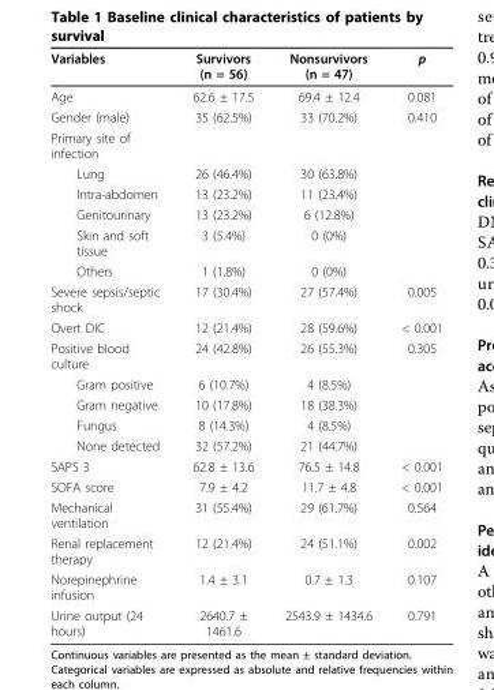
<table><thead><tr><td>Variables</td><td>Survivors (n = 56)</td><td>Nonsurvivors (n = 47)</td><td>p</td></tr></thead><tbody><tr><td>Age</td><td>62.6 ± 17.5</td><td>69.4 ± 12.4</td><td>0.081</td></tr><tr><td>Gender (male)</td><td>35 (62.5%)</td><td>33 (70.2%)</td><td>0.410</td></tr><tr><td colspan="4">Primary site of infection</td></tr><tr><td>Lung</td><td>26 (46.4%)</td><td>30 (63.8%)</td><td></td></tr><tr><td>Intra-abdomen</td><td>13 (23.2%)</td><td>11 (23.4%)</td><td></td></tr><tr><td>Genitourinary</td><td>13 (23.2%)</td><td>6 (12.8%)</td><td></td></tr><tr><td>Skin and soft tissue</td><td>3 (5.4%)</td><td>0 (0%)</td><td></td></tr><tr><td>Others</td><td>1 (1.8%)</td><td>0 (0%)</td><td></td></tr><tr><td>Severe sepsis/septic shock</td><td>17 (30.4%)</td><td>27 (57.4%)</td><td>0.005</td></tr><tr><td>Overt DIC</td><td>12 (21.4%)</td><td>28 (59.6%)</td><td>&lt; 0.001</td></tr><tr><td>Positive blood culture</td><td>24 (42.8%)</td><td>26 (55.3%)</td><td>0.305</td></tr><tr><td>Gram positive</td><td>6 (10.7%)</td><td>4 (8.5%)</td><td></td></tr><tr><td>Gram negative</td><td>10 (17.8%)</td><td>18 (38.3%)</td><td></td></tr><tr><td>Fungus</td><td>8 (14.3%)</td><td>4 (8.5%)</td><td></td></tr><tr><td>None detected</td><td>32 (57.2%)</td><td>21 (44.7%)</td><td></td></tr><tr><td>SAPS 3</td><td>62.8 ± 13.6</td><td>76.5 ± 14.8</td><td>&lt; 0.001</td></tr><tr><td>SOFA score</td><td>7.9 ± 4.2</td><td>11.7 ± 4.8</td><td>&lt; 0.001</td></tr><tr><td>Mechanical ventilation</td><td>31 (55.4%)</td><td>29 (61.7%)</td><td>0.564</td></tr><tr><td>Renal replacement therapy</td><td>12 (21.4%)</td><td>24 (51.1%)</td><td>0.002</td></tr><tr><td>Norepinephrine infusion</td><td>1.4 ± 3.1</td><td>0.7 ± 1.3</td><td>0.107</td></tr><tr><td>Urine output (24 hours)</td><td>2640.7 ± 1461.6</td><td>2543.9 ± 1434.6</td><td>0.791</td></tr></tbody></table>